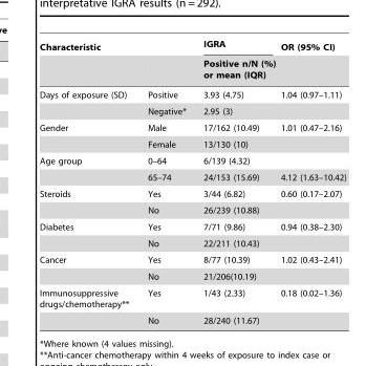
<table><thead><tr><td rowspan="2">Characteristic</td><td rowspan="2"></td><td rowspan="2">IGRA Positive n/N (%) or mean (IQR)</td><td rowspan="2">OR (95% CI)</td></tr><tr></tr></thead><tbody><tr><td rowspan="2">Days of exposure (SD)</td><td>Positive</td><td>3.93 (4.75)</td><td>1.04 (0.97–1.11)</td></tr><tr><td>Negative*</td><td>2.95 (3)</td><td></td></tr><tr><td rowspan="2">Gender</td><td>Male</td><td>17/162 (10.49)</td><td>1.01 (0.47–2.16)</td></tr><tr><td>Female</td><td>13/130 (10)</td><td></td></tr><tr><td rowspan="2">Age group</td><td>0–64</td><td>6/139 (4.32)</td><td></td></tr><tr><td>65–74</td><td>24/153 (15.69)</td><td>4.12 (1.63–10.42)</td></tr><tr><td rowspan="2">Steroids</td><td>Yes</td><td>3/44 (6.82)</td><td>0.60 (0.17–2.07)</td></tr><tr><td>No</td><td>26/239 (10.88)</td><td></td></tr><tr><td rowspan="2">Diabetes</td><td>Yes</td><td>7/71 (9.86)</td><td>0.94 (0.38–2.30)</td></tr><tr><td>No</td><td>22/211 (10.43)</td><td></td></tr><tr><td rowspan="2">Cancer</td><td>Yes</td><td>8/77 (10.39)</td><td>1.02 (0.43–2.41)</td></tr><tr><td>No</td><td>21/206(10.19)</td><td></td></tr><tr><td rowspan="2">Immunosuppressive drugs/chemotherapy**</td><td>Yes</td><td>1/43 (2.33)</td><td>0.18 (0.02–1.36)</td></tr><tr><td>No</td><td>28/240 (11.67)</td><td></td></tr></tbody></table>